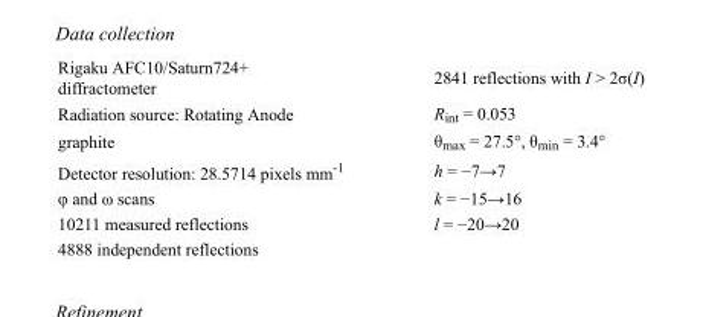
<table><tbody><tr><td>Rigaku AFC10/Saturn724+ diffractometer</td><td>2841 reflections with I &gt; 2σ(I)</td></tr><tr><td>Radiation source: Rotating Anode</td><td>R<sub>int</sub> = 0.053</td></tr><tr><td>graphite</td><td>θ<sub>max</sub> = 27.5°, θ<sub>min</sub> = 3.4°</td></tr><tr><td>Detector resolution: 28.5714 pixels mm<sup>-1</sup></td><td>h = −7→7</td></tr><tr><td>φ and ω scans</td><td>k = −15→16</td></tr><tr><td>10211 measured reflections</td><td>l = −20→20</td></tr><tr><td>4888 independent reflections</td><td></td></tr></tbody></table>